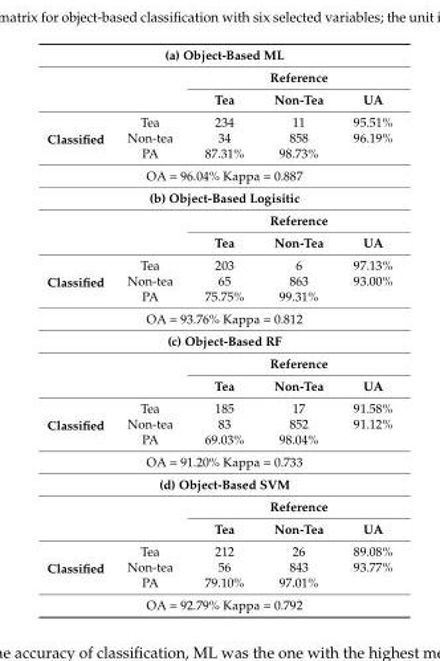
<table><tbody><tr><td colspan="5">(a) Object-Based ML</td></tr><tr><td rowspan="2" colspan="2"></td><td colspan="3">Reference</td></tr><tr><td>Tea</td><td>Non-Tea</td><td>UA</td></tr><tr><td rowspan="3">Classified</td><td>Tea</td><td>234</td><td>11</td><td>95.51%</td></tr><tr><td>Non-tea</td><td>34</td><td>858</td><td>96.19%</td></tr><tr><td>PA</td><td>87.31%</td><td>98.73%</td><td></td></tr><tr><td colspan="5">OA = 96.04% Kappa = 0.887</td></tr><tr><td colspan="5">(b) Object-Based Logisitic</td></tr><tr><td rowspan="2" colspan="2"></td><td colspan="3">Reference</td></tr><tr><td>Tea</td><td>Non-Tea</td><td>UA</td></tr><tr><td rowspan="3">Classified</td><td>Tea</td><td>203</td><td>6</td><td>97.13%</td></tr><tr><td>Non-tea</td><td>65</td><td>863</td><td>93.00%</td></tr><tr><td>PA</td><td>75.75%</td><td>99.31%</td><td></td></tr><tr><td colspan="5">OA = 93.76% Kappa = 0.812</td></tr><tr><td colspan="5">(c) Object-Based RF</td></tr><tr><td rowspan="2" colspan="2"></td><td colspan="3">Reference</td></tr><tr><td>Tea</td><td>Non-Tea</td><td>UA</td></tr><tr><td rowspan="3">Classified</td><td>Tea</td><td>185</td><td>17</td><td>91.58%</td></tr><tr><td>Non-tea</td><td>83</td><td>852</td><td>91.12%</td></tr><tr><td>PA</td><td>69.03%</td><td>98.04%</td><td></td></tr><tr><td colspan="5">OA = 91.20% Kappa = 0.733</td></tr><tr><td colspan="5">(d) Object-Based SVM</td></tr><tr><td rowspan="2" colspan="2"></td><td colspan="3">Reference</td></tr><tr><td>Tea</td><td>Non-Tea</td><td>UA</td></tr><tr><td rowspan="3">Classified</td><td>Tea</td><td>212</td><td>26</td><td>89.08%</td></tr><tr><td>Non-tea</td><td>56</td><td>843</td><td>93.77%</td></tr><tr><td>PA</td><td>79.10%</td><td>97.01%</td><td></td></tr><tr><td colspan="5">OA = 92.79% Kappa = 0.792</td></tr></tbody></table>